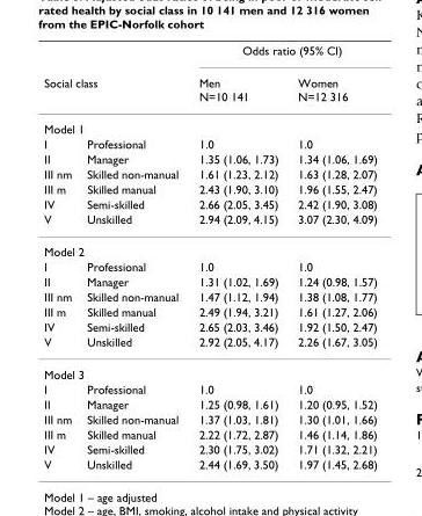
<table><thead><tr><td></td><td></td><td colspan="2">Odds ratio (95% CI)</td></tr><tr><td colspan="2">Social class</td><td>Men N=10 141</td><td>Women N=12 316</td></tr></thead><tbody><tr><td colspan="4">Model 1</td></tr><tr><td>I</td><td>Professional</td><td>1.0</td><td>1.0</td></tr><tr><td>II</td><td>Manager</td><td>1.35 (1.06, 1.73)</td><td>1.34 (1.06, 1.69)</td></tr><tr><td>III nm</td><td>Skilled non-manual</td><td>1.61 (1.23, 2.12)</td><td>1.63 (1.28, 2.07)</td></tr><tr><td>III m</td><td>Skilled manual</td><td>2.43 (1.90, 3.10)</td><td>1.96 (1.55, 2.47)</td></tr><tr><td>IV</td><td>Semi-skilled</td><td>2.66 (2.05, 3.45)</td><td>2.42 (1.90, 3.08)</td></tr><tr><td>V</td><td>Unskilled</td><td>2.94 (2.09, 4.15)</td><td>3.07 (2.30, 4.09)</td></tr><tr><td colspan="4">Model 2</td></tr><tr><td>I</td><td>Professional</td><td>1.0</td><td>1.0</td></tr><tr><td>II</td><td>Manager</td><td>1.31 (1.02, 1.69)</td><td>1.24 (0.98, 1.57)</td></tr><tr><td>III nm</td><td>Skilled non-manual</td><td>1.47 (1.12, 1.94)</td><td>1.38 (1.08, 1.77)</td></tr><tr><td>III m</td><td>Skilled manual</td><td>2.49 (1.94, 3.21)</td><td>1.61 (1.27, 2.06)</td></tr><tr><td>IV</td><td>Semi-skilled</td><td>2.65 (2.03, 3.46)</td><td>1.92 (1.50, 2.47)</td></tr><tr><td>V</td><td>Unskilled</td><td>2.92 (2.05, 4.17)</td><td>2.26 (1.67, 3.05)</td></tr><tr><td colspan="4">Model 3</td></tr><tr><td>I</td><td>Professional</td><td>1.0</td><td>1.0</td></tr><tr><td>II</td><td>Manager</td><td>1.25 (0.98, 1.61)</td><td>1.20 (0.95, 1.52)</td></tr><tr><td>III nm</td><td>Skilled non-manual</td><td>1.37 (1.03, 1.81)</td><td>1.30 (1.01, 1.66)</td></tr><tr><td>III m</td><td>Skilled manual</td><td>2.22 (1.72, 2.87)</td><td>1.46 (1.14, 1.86)</td></tr><tr><td>IV</td><td>Semi-skilled</td><td>2.30 (1.75, 3.02)</td><td>1.71 (1.32, 2.21)</td></tr><tr><td>V</td><td>Unskilled</td><td>2.44 (1.69, 3.50)</td><td>1.97 (1.45, 2.68)</td></tr></tbody></table>